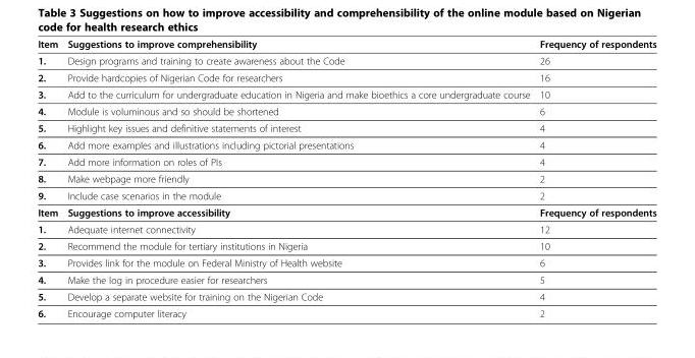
<table><thead><tr><td>Item</td><td>Suggestions to improve comprehensibility</td><td>Frequency of respondents</td></tr></thead><tbody><tr><td>1.</td><td>Design programs and training to create awareness about the Code</td><td>26</td></tr><tr><td>2.</td><td>Provide hardcopies of Nigerian Code for researchers</td><td>16</td></tr><tr><td>3.</td><td>Add to the curriculum for undergraduate education in Nigeria and make bioethics a core undergraduate course</td><td>10</td></tr><tr><td>4.</td><td>Module is voluminous and so should be shortened</td><td>6</td></tr><tr><td>5.</td><td>Highlight key issues and definitive statements of interest</td><td>4</td></tr><tr><td>6.</td><td>Add more examples and illustrations including pictorial presentations</td><td>4</td></tr><tr><td>7.</td><td>Add more information on roles of PIs</td><td>4</td></tr><tr><td>8.</td><td>Make webpage more friendly</td><td>2</td></tr><tr><td>9.</td><td>Include case scenarios in the module</td><td>2</td></tr><tr><td>Item</td><td>Suggestions to improve accessibility</td><td>Frequency of respondents</td></tr><tr><td>1.</td><td>Adequate internet connectivity</td><td>12</td></tr><tr><td>2.</td><td>Recommend the module for tertiary institutions in Nigeria</td><td>10</td></tr><tr><td>3.</td><td>Provides link for the module on Federal Ministry of Health website</td><td>6</td></tr><tr><td>4.</td><td>Make the log in procedure easier for researchers</td><td>5</td></tr><tr><td>5.</td><td>Develop a separate website for training on the Nigerian Code</td><td>4</td></tr><tr><td>6.</td><td>Encourage computer literacy</td><td>2</td></tr></tbody></table>